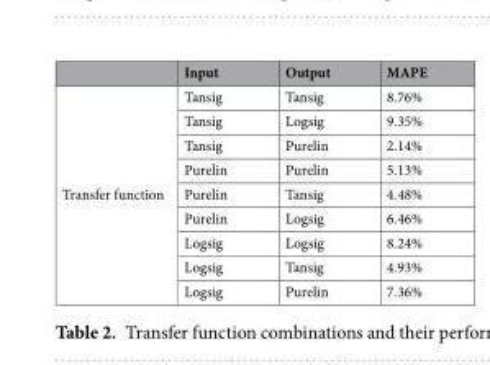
<table><thead><tr><td></td><td>Input</td><td>Output</td><td>MAPE</td></tr></thead><tbody><tr><td rowspan="9">Transfer function</td><td>Tansig</td><td>Tansig</td><td>8.76%</td></tr><tr><td>Tansig</td><td>Logsig</td><td>9.35%</td></tr><tr><td>Tansig</td><td>Purelin</td><td>2.14%</td></tr><tr><td>Purelin</td><td>Purelin</td><td>5.13%</td></tr><tr><td>Purelin</td><td>Tansig</td><td>4.48%</td></tr><tr><td>Purelin</td><td>Logsig</td><td>6.46%</td></tr><tr><td>Logsig</td><td>Logsig</td><td>8.24%</td></tr><tr><td>Logsig</td><td>Tansig</td><td>4.93%</td></tr><tr><td>Logsig</td><td>Purelin</td><td>7.36%</td></tr></tbody></table>